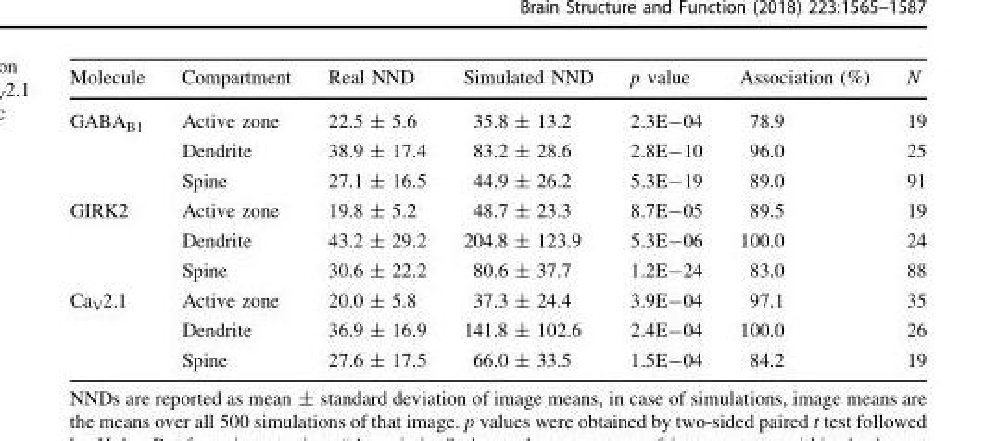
<table><thead><tr><td>Molecule</td><td>Compartment</td><td>Real NND</td><td>Simulated NND</td><td>p value</td><td>Association (%)</td><td>N</td></tr></thead><tbody><tr><td rowspan="3">GABA<sub>B1</sub></td><td>Active zone</td><td>22.5 ± 5.6</td><td>35.8 ± 13.2</td><td>2.3E-04</td><td>78.9</td><td>19</td></tr><tr><td>Dendrite</td><td>38.9 ± 17.4</td><td>83.2 ± 28.6</td><td>2.8E-10</td><td>96.0</td><td>25</td></tr><tr><td>Spine</td><td>27.1 ± 16.5</td><td>44.9 ± 26.2</td><td>5.3E-19</td><td>89.0</td><td>91</td></tr><tr><td rowspan="3">GIRK2</td><td>Active zone</td><td>19.8 ± 5.2</td><td>48.7 ± 23.3</td><td>8.7E-05</td><td>89.5</td><td>19</td></tr><tr><td>Dendrite</td><td>43.2 ± 29.2</td><td>204.8 ± 123.9</td><td>5.3E-06</td><td>100.0</td><td>24</td></tr><tr><td>Spine</td><td>30.6 ± 22.2</td><td>80.6 ± 37.7</td><td>1.2E-24</td><td>83.0</td><td>88</td></tr><tr><td rowspan="3">Ca<sub>V</sub>2.1</td><td>Active zone</td><td>20.0 ± 5.8</td><td>37.3 ± 24.4</td><td>3.9E-04</td><td>97.1</td><td>35</td></tr><tr><td>Dendrite</td><td>36.9 ± 16.9</td><td>141.8 ± 102.6</td><td>2.4E-04</td><td>100.0</td><td>26</td></tr><tr><td>Spine</td><td>27.6 ± 17.5</td><td>66.0 ± 33.5</td><td>1.5E-04</td><td>84.2</td><td>19</td></tr></tbody></table>